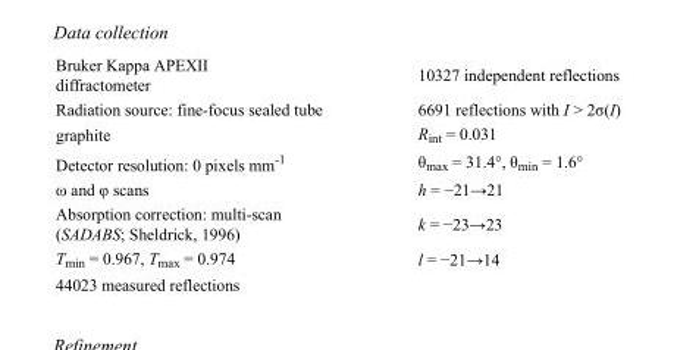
<table><tbody><tr><td>Bruker Kappa APEXII diffractometer</td><td>10327 independent reflections</td></tr><tr><td>Radiation source: fine-focus sealed tube</td><td>6691 reflections with I &gt; 2σ(I)</td></tr><tr><td>graphite</td><td>R<sub>int</sub> = 0.031</td></tr><tr><td>Detector resolution: 0 pixels mm<sup>-1</sup></td><td>θ<sub>max</sub> = 31.4°, θ<sub>min</sub> = 1.6°</td></tr><tr><td>ω and φ scans</td><td>h = −21→21</td></tr><tr><td>Absorption correction: multi-scan (SADABS; Sheldrick, 1996)</td><td>k = −23→23</td></tr><tr><td>T<sub>min</sub> = 0.967, T<sub>max</sub> = 0.974</td><td>l = −21→14</td></tr><tr><td>44023 measured reflections</td><td></td></tr></tbody></table>